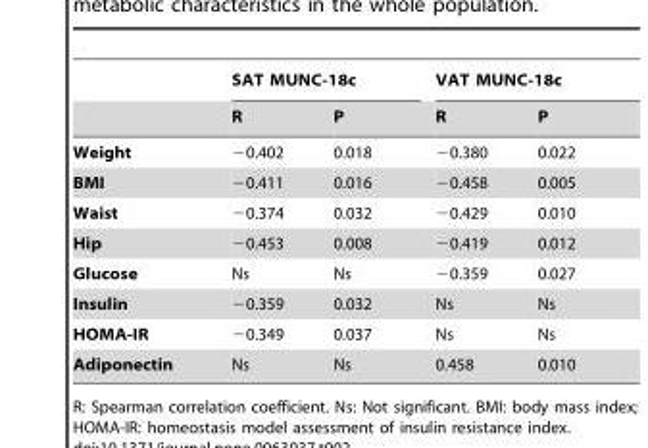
<table><thead><tr><td rowspan="2"></td><td colspan="2">SAT MUNC-18c</td><td colspan="2">VAT MUNC-18c</td></tr><tr><td>R</td><td>P</td><td>R</td><td>P</td></tr></thead><tbody><tr><td>Weight</td><td>−0.402</td><td>0.018</td><td>−0.380</td><td>0.022</td></tr><tr><td>BMI</td><td>−0.411</td><td>0.016</td><td>−0.458</td><td>0.005</td></tr><tr><td>Waist</td><td>−0.374</td><td>0.032</td><td>−0.429</td><td>0.010</td></tr><tr><td>Hip</td><td>−0.453</td><td>0.008</td><td>−0.419</td><td>0.012</td></tr><tr><td>Glucose</td><td>Ns</td><td>Ns</td><td>−0.359</td><td>0.027</td></tr><tr><td>Insulin</td><td>−0.359</td><td>0.032</td><td>Ns</td><td>Ns</td></tr><tr><td>HOMA-IR</td><td>−0.349</td><td>0.037</td><td>Ns</td><td>Ns</td></tr><tr><td>Adiponectin</td><td>Ns</td><td>Ns</td><td>0.458</td><td>0.010</td></tr></tbody></table>